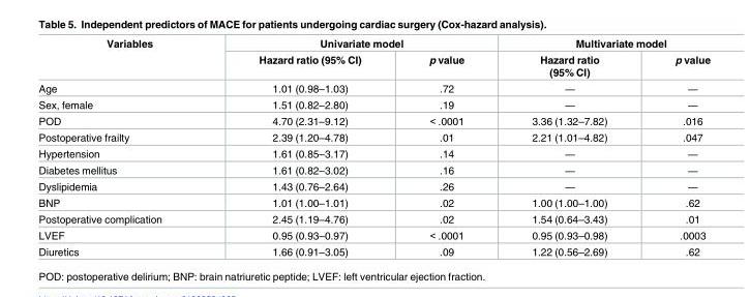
<table><thead><tr><td rowspan="2">Variables</td><td colspan="2">Univariate model</td><td colspan="2">Multivariate model</td></tr><tr><td>Hazard ratio (95% CI)</td><td>p value</td><td>Hazard ratio (95% CI)</td><td>p value</td></tr></thead><tbody><tr><td>Age</td><td>1.01 (0.98–1.03)</td><td>.72</td><td>―</td><td>―</td></tr><tr><td>Sex, female</td><td>1.51 (0.82–2.80)</td><td>.19</td><td>―</td><td>―</td></tr><tr><td>POD</td><td>4.70 (2.31–9.12)</td><td>&lt; .0001</td><td>3.36 (1.32–7.82)</td><td>.016</td></tr><tr><td>Postoperative frailty</td><td>2.39 (1.20–4.78)</td><td>.01</td><td>2.21 (1.01–4.82)</td><td>.047</td></tr><tr><td>Hypertension</td><td>1.61 (0.85–3.17)</td><td>.14</td><td>―</td><td>―</td></tr><tr><td>Diabetes mellitus</td><td>1.61 (0.82–3.02)</td><td>.16</td><td>―</td><td>―</td></tr><tr><td>Dyslipidemia</td><td>1.43 (0.76–2.64)</td><td>.26</td><td>―</td><td>―</td></tr><tr><td>BNP</td><td>1.01 (1.00–1.01)</td><td>.02</td><td>1.00 (1.00–1.00)</td><td>.62</td></tr><tr><td>Postoperative complication</td><td>2.45 (1.19–4.76)</td><td>.02</td><td>1.54 (0.64–3.43)</td><td>.01</td></tr><tr><td>LVEF</td><td>0.95 (0.93–0.97)</td><td>&lt; .0001</td><td>0.95 (0.93–0.98)</td><td>.0003</td></tr><tr><td>Diuretics</td><td>1.66 (0.91–3.05)</td><td>.09</td><td>1.22 (0.56–2.69)</td><td>.62</td></tr></tbody></table>